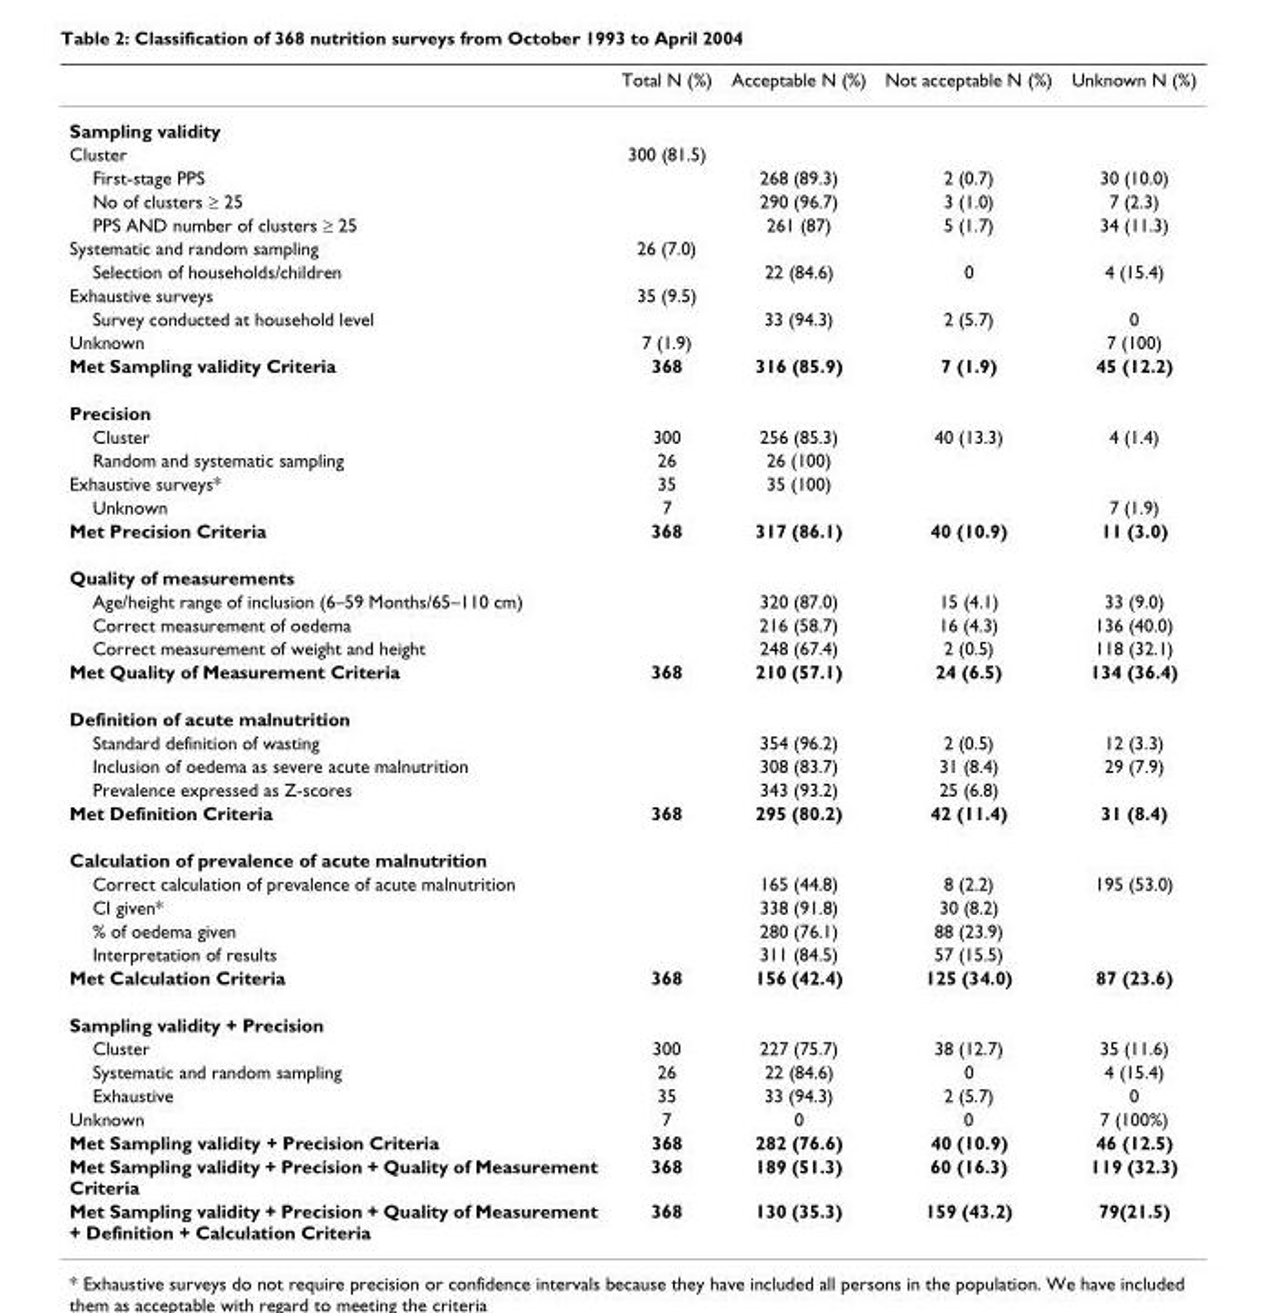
<table><thead><tr><td></td><td>Total N (%)</td><td>Acceptable N (%)</td><td>Not acceptable N (%)</td><td>Unknown N (%)</td></tr></thead><tbody><tr><td colspan="5">Sampling validity</td></tr><tr><td>Cluster</td><td>300 (81.5)</td><td></td><td></td><td></td></tr><tr><td>First-stage PPS</td><td></td><td>268 (89.3)</td><td>2 (0.7)</td><td>30 (10.0)</td></tr><tr><td>No of clusters ≥ 25</td><td></td><td>290 (96.7)</td><td>3 (1.0)</td><td>7 (2.3)</td></tr><tr><td>PPS AND number of clusters ≥ 25</td><td></td><td>261 (87)</td><td>5 (1.7)</td><td>34 (11.3)</td></tr><tr><td>Systematic and random sampling</td><td>26 (7.0)</td><td></td><td></td><td></td></tr><tr><td>Selection of households/children</td><td></td><td>22 (84.6)</td><td>0</td><td>4 (15.4)</td></tr><tr><td>Exhaustive surveys</td><td>35 (9.5)</td><td></td><td></td><td></td></tr><tr><td>Survey conducted at household level</td><td></td><td>33 (94.3)</td><td>2 (5.7)</td><td>0</td></tr><tr><td>Unknown</td><td>7 (1.9)</td><td></td><td></td><td>7 (100)</td></tr><tr><td>Met Sampling validity Criteria</td><td>368</td><td>316 (85.9)</td><td>7 (1.9)</td><td>45 (12.2)</td></tr><tr><td colspan="5">Precision</td></tr><tr><td>Cluster</td><td>300</td><td>256 (85.3)</td><td>40 (13.3)</td><td>4 (1.4)</td></tr><tr><td>Random and systematic sampling</td><td>26</td><td>26 (100)</td><td></td><td></td></tr><tr><td>Exhaustive surveys*</td><td>35</td><td>35 (100)</td><td></td><td></td></tr><tr><td>Unknown</td><td>7</td><td></td><td></td><td>7 (1.9)</td></tr><tr><td>Met Precision Criteria</td><td>368</td><td>317 (86.1)</td><td>40 (10.9)</td><td>11 (3.0)</td></tr><tr><td colspan="5">Quality of measurements</td></tr><tr><td>Age/height range of inclusion (6–59 Months/65–110 cm)</td><td></td><td>320 (87.0)</td><td>15 (4.1)</td><td>33 (9.0)</td></tr><tr><td>Correct measurement of oedema</td><td></td><td>216 (58.7)</td><td>16 (4.3)</td><td>136 (40.0)</td></tr><tr><td>Correct measurement of weight and height</td><td></td><td>248 (67.4)</td><td>2 (0.5)</td><td>118 (32.1)</td></tr><tr><td>Met Quality of Measurement Criteria</td><td>368</td><td>210 (57.1)</td><td>24 (6.5)</td><td>134 (36.4)</td></tr><tr><td colspan="5">Definition of acute malnutrition</td></tr><tr><td>Standard definition of wasting</td><td></td><td>354 (96.2)</td><td>2 (0.5)</td><td>12 (3.3)</td></tr><tr><td>Inclusion of oedema as severe acute malnutrition</td><td></td><td>308 (83.7)</td><td>31 (8.4)</td><td>29 (7.9)</td></tr><tr><td>Prevalence expressed as Z-scores</td><td></td><td>343 (93.2)</td><td>25 (6.8)</td><td></td></tr><tr><td>Met Definition Criteria</td><td>368</td><td>295 (80.2)</td><td>42 (11.4)</td><td>31 (8.4)</td></tr><tr><td colspan="5">Calculation of prevalence of acute malnutrition</td></tr><tr><td>Correct calculation of prevalence of acute malnutrition</td><td></td><td>165 (44.8)</td><td>8 (2.2)</td><td>195 (53.0)</td></tr><tr><td>CI given*</td><td></td><td>338 (91.8)</td><td>30 (8.2)</td><td></td></tr><tr><td>% of oedema given</td><td></td><td>280 (76.1)</td><td>88 (23.9)</td><td></td></tr><tr><td>Interpretation of results</td><td></td><td>311 (84.5)</td><td>57 (15.5)</td><td></td></tr><tr><td>Met Calculation Criteria</td><td>368</td><td>156 (42.4)</td><td>125 (34.0)</td><td>87 (23.6)</td></tr><tr><td colspan="5">Sampling validity + Precision</td></tr><tr><td>Cluster</td><td>300</td><td>227 (75.7)</td><td>38 (12.7)</td><td>35 (11.6)</td></tr><tr><td>Systematic and random sampling</td><td>26</td><td>22 (84.6)</td><td>0</td><td>4 (15.4)</td></tr><tr><td>Exhaustive</td><td>35</td><td>33 (94.3)</td><td>2 (5.7)</td><td>0</td></tr><tr><td>Unknown</td><td>7</td><td>0</td><td>0</td><td>7 (100%)</td></tr><tr><td>Met Sampling validity + Precision Criteria</td><td>368</td><td>282 (76.6)</td><td>40 (10.9)</td><td>46 (12.5)</td></tr><tr><td>Met Sampling validity + Precision + Quality of Measurement Criteria</td><td>368</td><td>189 (51.3)</td><td>60 (16.3)</td><td>119 (32.3)</td></tr><tr><td>Met Sampling validity + Precision + Quality of Measurement + Definition + Calculation Criteria</td><td>368</td><td>130 (35.3)</td><td>159 (43.2)</td><td>79(21.5)</td></tr></tbody></table>